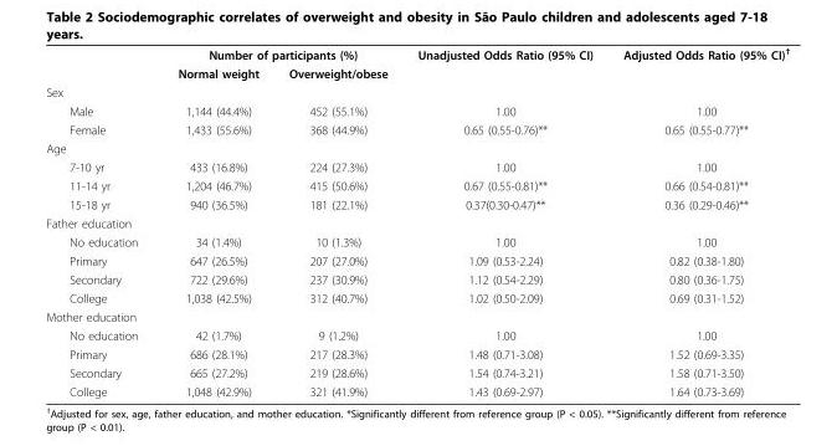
<table><thead><tr><td rowspan="2"></td><td colspan="2">Number of participants (%)</td><td rowspan="2">Unadjusted Odds Ratio (95% CI)</td><td rowspan="2">Adjusted Odds Ratio (95% CI)<sup>†</sup></td></tr><tr><td>Normal weight</td><td>Overweight/obese</td></tr></thead><tbody><tr><td colspan="5">Sex</td></tr><tr><td>Male</td><td>1,144 (44.4%)</td><td>452 (55.1%)</td><td>1.00</td><td>1.00</td></tr><tr><td>Female</td><td>1,433 (55.6%)</td><td>368 (44.9%)</td><td>0.65 (0.55-0.76)**</td><td>0.65 (0.55-0.77)**</td></tr><tr><td colspan="5">Age</td></tr><tr><td>7-10 yr</td><td>433 (16.8%)</td><td>224 (27.3%)</td><td>1.00</td><td>1.00</td></tr><tr><td>11-14 yr</td><td>1,204 (46.7%)</td><td>415 (50.6%)</td><td>0.67 (0.55-0.81)**</td><td>0.66 (0.54-0.81)**</td></tr><tr><td>15-18 yr</td><td>940 (36.5%)</td><td>181 (22.1%)</td><td>0.37(0.30-0.47)**</td><td>0.36 (0.29-0.46)**</td></tr><tr><td colspan="5">Father education</td></tr><tr><td>No education</td><td>34 (1.4%)</td><td>10 (1.3%)</td><td>1.00</td><td>1.00</td></tr><tr><td>Primary</td><td>647 (26.5%)</td><td>207 (27.0%)</td><td>1.09 (0.53-2.24)</td><td>0.82 (0.38-1.80)</td></tr><tr><td>Secondary</td><td>722 (29.6%)</td><td>237 (30.9%)</td><td>1.12 (0.54-2.29)</td><td>0.80 (0.36-1.75)</td></tr><tr><td>College</td><td>1,038 (42.5%)</td><td>312 (40.7%)</td><td>1.02 (0.50-2.09)</td><td>0.69 (0.31-1.52)</td></tr><tr><td colspan="5">Mother education</td></tr><tr><td>No education</td><td>42 (1.7%)</td><td>9 (1.2%)</td><td>1.00</td><td>1.00</td></tr><tr><td>Primary</td><td>686 (28.1%)</td><td>217 (28.3%)</td><td>1.48 (0.71-3.08)</td><td>1.52 (0.69-3.35)</td></tr><tr><td>Secondary</td><td>665 (27.2%)</td><td>219 (28.6%)</td><td>1.54 (0.74-3.21)</td><td>1.58 (0.71-3.50)</td></tr><tr><td>College</td><td>1,048 (42.9%)</td><td>321 (41.9%)</td><td>1.43 (0.69-2.97)</td><td>1.64 (0.73-3.69)</td></tr></tbody></table>